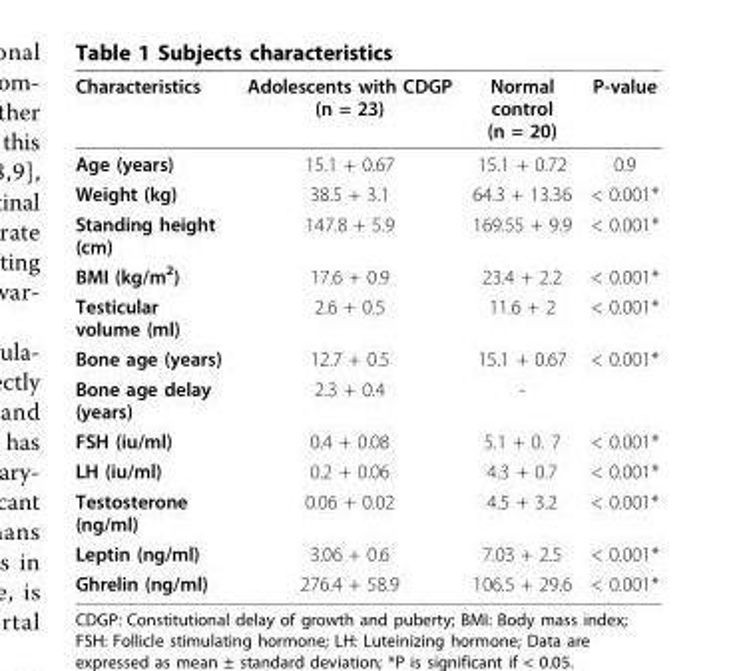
<table><thead><tr><td>Characteristics</td><td>Adolescents with CDGP (n = 23)</td><td>Normal control (n = 20)</td><td>P-value</td></tr></thead><tbody><tr><td>Age (years)</td><td>15.1 + 0.67</td><td>15.1 + 0.72</td><td>0.9</td></tr><tr><td>Weight (kg)</td><td>38.5 + 3.1</td><td>64.3 + 13.36</td><td>&lt; 0.001*</td></tr><tr><td>Standing height (cm)</td><td>147.8 + 5.9</td><td>169.55 + 9.9</td><td>&lt; 0.001*</td></tr><tr><td>BMI (kg/m<sup>2</sup>)</td><td>17.6 + 0.9</td><td>23.4 + 2.2</td><td>&lt; 0.001*</td></tr><tr><td>Testicular volume (ml)</td><td>2.6 + 0.5</td><td>11.6 + 2</td><td>&lt; 0.001*</td></tr><tr><td>Bone age (years)</td><td>12.7 + 0.5</td><td>15.1 + 0.67</td><td>&lt; 0.001*</td></tr><tr><td>Bone age delay (years)</td><td>2.3 + 0.4</td><td>-</td><td></td></tr><tr><td>FSH (iu/ml)</td><td>0.4 + 0.08</td><td>5.1 + 0. 7</td><td>&lt; 0.001*</td></tr><tr><td>LH (iu/ml)</td><td>0.2 + 0.06</td><td>4.3 + 0.7</td><td>&lt; 0.001*</td></tr><tr><td>Testosterone (ng/ml)</td><td>0.06 + 0.02</td><td>4.5 + 3.2</td><td>&lt; 0.001*</td></tr><tr><td>Leptin (ng/ml)</td><td>3.06 + 0.6</td><td>7.03 + 2.5</td><td>&lt; 0.001*</td></tr><tr><td>Ghrelin (ng/ml)</td><td>276.4 + 58.9</td><td>106.5 + 29.6</td><td>&lt; 0.001*</td></tr></tbody></table>